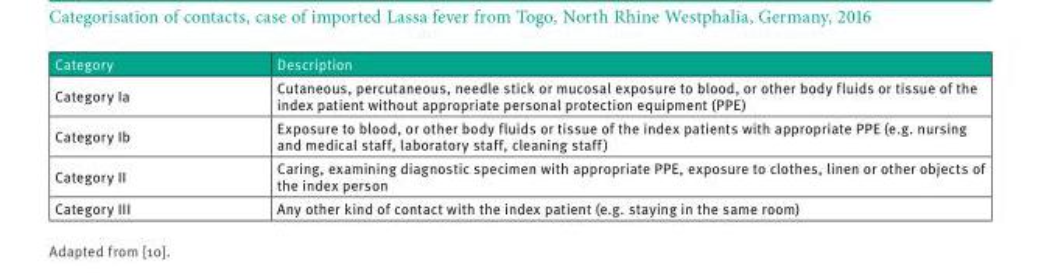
<table><thead><tr><td>Category</td><td>Description</td></tr></thead><tbody><tr><td>Category Ia</td><td>Cutaneous, percutaneous, needle stick or mucosal exposure to blood, or other body fluids or tissue of the index patient without appropriate personal protection equipment (PPE)</td></tr><tr><td>Category Ib</td><td>Exposure to blood, or other body fluids or tissue of the index patients with appropriate PPE (e.g. nursing and medical staff, laboratory staff, cleaning staff)</td></tr><tr><td>Category II</td><td>Caring, examining diagnostic specimen with appropriate PPE, exposure to clothes, linen or other objects of the index person</td></tr><tr><td>Category III</td><td>Any other kind of contact with the index patient (e.g. staying in the same room)</td></tr></tbody></table>